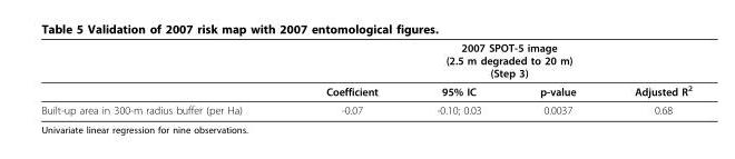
<table><thead><tr><td rowspan="2"></td><td colspan="4">2007 SPOT-5 image (2.5 m degraded to 20 m) (Step 3)</td></tr><tr><td>Coefficient</td><td>95% IC</td><td>p-value</td><td>Adjusted R<sup>2</sup></td></tr></thead><tbody><tr><td>Built-up area in 300-m radius buffer (per Ha)</td><td>-0.07</td><td>-0.10; 0.03</td><td>0.0037</td><td>0.68</td></tr></tbody></table>